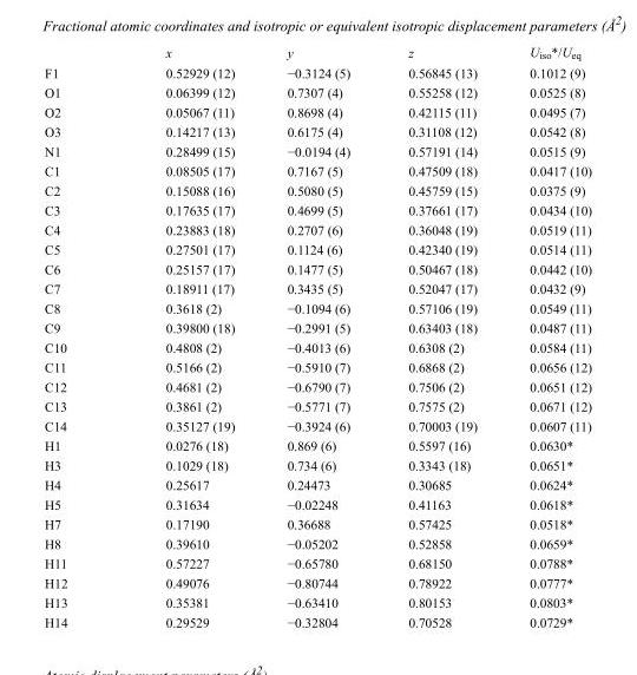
<table><thead><tr><td></td><td>x</td><td>y</td><td>z</td><td>U<sub>iso</sub>*/U<sub>eq</sub></td></tr></thead><tbody><tr><td>F1</td><td>0.52929 (12)</td><td>−0.3124 (5)</td><td>0.56845 (13)</td><td>0.1012 (9)</td></tr><tr><td>O1</td><td>0.06399 (12)</td><td>0.7307 (4)</td><td>0.55258 (12)</td><td>0.0525 (8)</td></tr><tr><td>O2</td><td>0.05067 (11)</td><td>0.8698 (4)</td><td>0.42115 (11)</td><td>0.0495 (7)</td></tr><tr><td>O3</td><td>0.14217 (13)</td><td>0.6175 (4)</td><td>0.31108 (12)</td><td>0.0542 (8)</td></tr><tr><td>N1</td><td>0.28499 (15)</td><td>−0.0194 (4)</td><td>0.57191 (14)</td><td>0.0515 (9)</td></tr><tr><td>C1</td><td>0.08505 (17)</td><td>0.7167 (5)</td><td>0.47509 (18)</td><td>0.0417 (10)</td></tr><tr><td>C2</td><td>0.15088 (16)</td><td>0.5080 (5)</td><td>0.45759 (15)</td><td>0.0375 (9)</td></tr><tr><td>C3</td><td>0.17635 (17)</td><td>0.4699 (5)</td><td>0.37661 (17)</td><td>0.0434 (10)</td></tr><tr><td>C4</td><td>0.23883 (18)</td><td>0.2707 (6)</td><td>0.36048 (19)</td><td>0.0519 (11)</td></tr><tr><td>C5</td><td>0.27501 (17)</td><td>0.1124 (6)</td><td>0.42340 (19)</td><td>0.0514 (11)</td></tr><tr><td>C6</td><td>0.25157 (17)</td><td>0.1477 (5)</td><td>0.50467 (18)</td><td>0.0442 (10)</td></tr><tr><td>C7</td><td>0.18911 (17)</td><td>0.3435 (5)</td><td>0.52047 (17)</td><td>0.0432 (9)</td></tr><tr><td>C8</td><td>0.3618 (2)</td><td>−0.1094 (6)</td><td>0.57106 (19)</td><td>0.0549 (11)</td></tr><tr><td>C9</td><td>0.39800 (18)</td><td>−0.2991 (5)</td><td>0.63403 (18)</td><td>0.0487 (11)</td></tr><tr><td>C10</td><td>0.4808 (2)</td><td>−0.4013 (6)</td><td>0.6308 (2)</td><td>0.0584 (11)</td></tr><tr><td>C11</td><td>0.5166 (2)</td><td>−0.5910 (7)</td><td>0.6868 (2)</td><td>0.0656 (12)</td></tr><tr><td>C12</td><td>0.4681 (2)</td><td>−0.6790 (7)</td><td>0.7506 (2)</td><td>0.0651 (12)</td></tr><tr><td>C13</td><td>0.3861 (2)</td><td>−0.5771 (7)</td><td>0.7575 (2)</td><td>0.0671 (12)</td></tr><tr><td>C14</td><td>0.35127 (19)</td><td>−0.3924 (6)</td><td>0.70003 (19)</td><td>0.0607 (11)</td></tr><tr><td>H1</td><td>0.0276 (18)</td><td>0.869 (6)</td><td>0.5597 (16)</td><td>0.0630*</td></tr><tr><td>H3</td><td>0.1029 (18)</td><td>0.734 (6)</td><td>0.3343 (18)</td><td>0.0651*</td></tr><tr><td>H4</td><td>0.25617</td><td>0.24473</td><td>0.30685</td><td>0.0624*</td></tr><tr><td>H5</td><td>0.31634</td><td>−0.02248</td><td>0.41163</td><td>0.0618*</td></tr><tr><td>H7</td><td>0.17190</td><td>0.36688</td><td>0.57425</td><td>0.0518*</td></tr><tr><td>H8</td><td>0.39610</td><td>−0.05202</td><td>0.52858</td><td>0.0659*</td></tr><tr><td>H11</td><td>0.57227</td><td>−0.65780</td><td>0.68150</td><td>0.0788*</td></tr><tr><td>H12</td><td>0.49076</td><td>−0.80744</td><td>0.78922</td><td>0.0777*</td></tr><tr><td>H13</td><td>0.35381</td><td>−0.63410</td><td>0.80153</td><td>0.0803*</td></tr><tr><td>H14</td><td>0.29529</td><td>−0.32804</td><td>0.70528</td><td>0.0729*</td></tr></tbody></table>